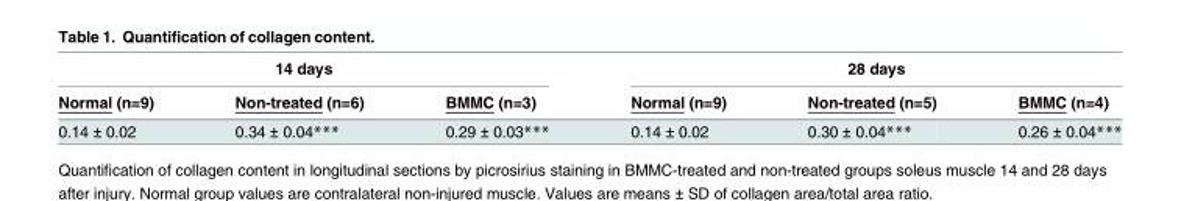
<table><thead><tr><td colspan="3">14 days</td><td colspan="3">28 days</td></tr><tr><td>Normal (n=9)</td><td>Non-treated (n=6)</td><td>BMMC (n=3)</td><td>Normal (n=9)</td><td>Non-treated (n=5)</td><td>BMMC (n=4)</td></tr></thead><tbody><tr><td>0.14 ± 0.02</td><td>0.34 ± 0.04***</td><td>0.29 ± 0.03***</td><td>0.14 ± 0.02</td><td>0.30 ± 0.04***</td><td>0.26 ± 0.04***</td></tr></tbody></table>